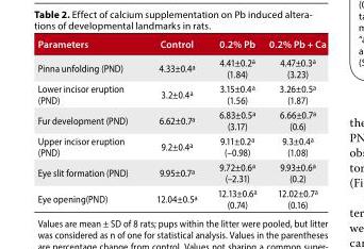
<table><thead><tr><td>Parameters</td><td>Control</td><td>0.2% Pb</td><td>0.2% Pb + Ca</td></tr></thead><tbody><tr><td>Pinna unfolding (PND)</td><td>4.33±0.4<sup>a</sup></td><td>4.41±0.2<sup>a</sup> (1.84)</td><td>4.47±0.3<sup>a</sup> (3.23)</td></tr><tr><td>Lower incisor eruption (PND)</td><td>3.2±0.4<sup>a</sup></td><td>3.15±0.4<sup>a</sup> (1.56)</td><td>3.26±0.5<sup>a</sup> (1.87)</td></tr><tr><td>Fur development (PND)</td><td>6.62±0.7<sup>a</sup></td><td>6.83±0.5<sup>a</sup> (3.17)</td><td>6.66±0.7<sup>a</sup> (0.6)</td></tr><tr><td>Upper incisor eruption (PND)</td><td>9.2±0.4<sup>a</sup></td><td>9.11±0.2<sup>a</sup> (–0.98)</td><td>9.3±0.4<sup>a</sup> (1.08)</td></tr><tr><td>Eye slit formation (PND)</td><td>9.95±0.7<sup>a</sup></td><td>9.72±0.6<sup>a</sup> (–2.31)</td><td>9.93±0.6<sup>a</sup> (0.2)</td></tr><tr><td>Eye opening(PND)</td><td>12.04±0.5<sup>a</sup></td><td>12.13±0.6<sup>a</sup> (0.74)</td><td>12.02±0.7<sup>a</sup> (0.16)</td></tr></tbody></table>